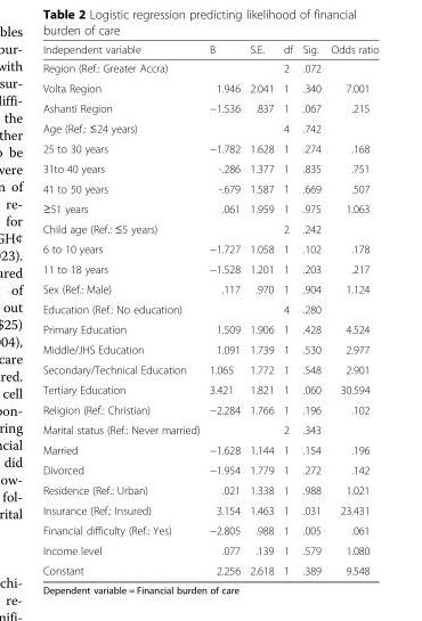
<table><thead><tr><td>Independent variable</td><td>B</td><td>S.E.</td><td>df</td><td>Sig.</td><td>Odds ratio</td></tr></thead><tbody><tr><td>Region (Ref.: Greater Accra)</td><td></td><td></td><td>2</td><td>.072</td><td></td></tr><tr><td>Volta Region</td><td>1.946</td><td>2.041</td><td>1</td><td>.340</td><td>7.001</td></tr><tr><td>Ashanti Region</td><td>−1.536</td><td>.837</td><td>1</td><td>.067</td><td>.215</td></tr><tr><td>Age (Ref.: ≤24 years)</td><td></td><td></td><td>4</td><td>.742</td><td></td></tr><tr><td>25 to 30 years</td><td>−1.782</td><td>1.628</td><td>1</td><td>.274</td><td>.168</td></tr><tr><td>31to 40 years</td><td>-.286</td><td>1.377</td><td>1</td><td>.835</td><td>.751</td></tr><tr><td>41 to 50 years</td><td>-.679</td><td>1.587</td><td>1</td><td>.669</td><td>.507</td></tr><tr><td>≥51 years</td><td>.061</td><td>1.959</td><td>1</td><td>.975</td><td>1.063</td></tr><tr><td>Child age (Ref.: ≤5 years)</td><td></td><td></td><td>2</td><td>.242</td><td></td></tr><tr><td>6 to 10 years</td><td>−1.727</td><td>1.058</td><td>1</td><td>.102</td><td>.178</td></tr><tr><td>11 to 18 years</td><td>−1.528</td><td>1.201</td><td>1</td><td>.203</td><td>.217</td></tr><tr><td>Sex (Ref.: Male)</td><td>.117</td><td>.970</td><td>1</td><td>.904</td><td>1.124</td></tr><tr><td>Education (Ref.: No education)</td><td></td><td></td><td>4</td><td>.280</td><td></td></tr><tr><td>Primary Education</td><td>1.509</td><td>1.906</td><td>1</td><td>.428</td><td>4.524</td></tr><tr><td>Middle/JHS Education</td><td>1.091</td><td>1.739</td><td>1</td><td>.530</td><td>2.977</td></tr><tr><td>Secondary/Technical Education</td><td>1.065</td><td>1.772</td><td>1</td><td>.548</td><td>2.901</td></tr><tr><td>Tertiary Education</td><td>3.421</td><td>1.821</td><td>1</td><td>.060</td><td>30.594</td></tr><tr><td>Religion (Ref.: Christian)</td><td>−2.284</td><td>1.766</td><td>1</td><td>.196</td><td>.102</td></tr><tr><td>Marital status (Ref.: Never married)</td><td></td><td></td><td>2</td><td>.343</td><td></td></tr><tr><td>Married</td><td>−1.628</td><td>1.144</td><td>1</td><td>.154</td><td>.196</td></tr><tr><td>Divorced</td><td>−1.954</td><td>1.779</td><td>1</td><td>.272</td><td>.142</td></tr><tr><td>Residence (Ref.: Urban)</td><td>.021</td><td>1.338</td><td>1</td><td>.988</td><td>1.021</td></tr><tr><td>Insurance (Ref.: Insured)</td><td>3.154</td><td>1.463</td><td>1</td><td>.031</td><td>23.431</td></tr><tr><td>Financial difficulty (Ref.: Yes)</td><td>−2.805</td><td>.988</td><td>1</td><td>.005</td><td>.061</td></tr><tr><td>Income level</td><td>.077</td><td>.139</td><td>1</td><td>.579</td><td>1.080</td></tr><tr><td>Constant</td><td>2.256</td><td>2.618</td><td>1</td><td>.389</td><td>9.548</td></tr></tbody></table>